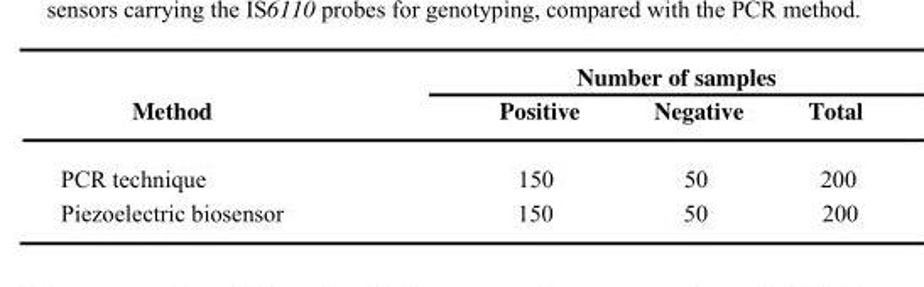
<table><thead><tr><td rowspan="2">Method</td><td colspan="3">Number of samples</td></tr><tr><td>Positive</td><td>Negative</td><td>Total</td></tr></thead><tbody><tr><td>PCR technique</td><td>150</td><td>50</td><td>200</td></tr><tr><td>Piezoelectric biosensor</td><td>150</td><td>50</td><td>200</td></tr></tbody></table>